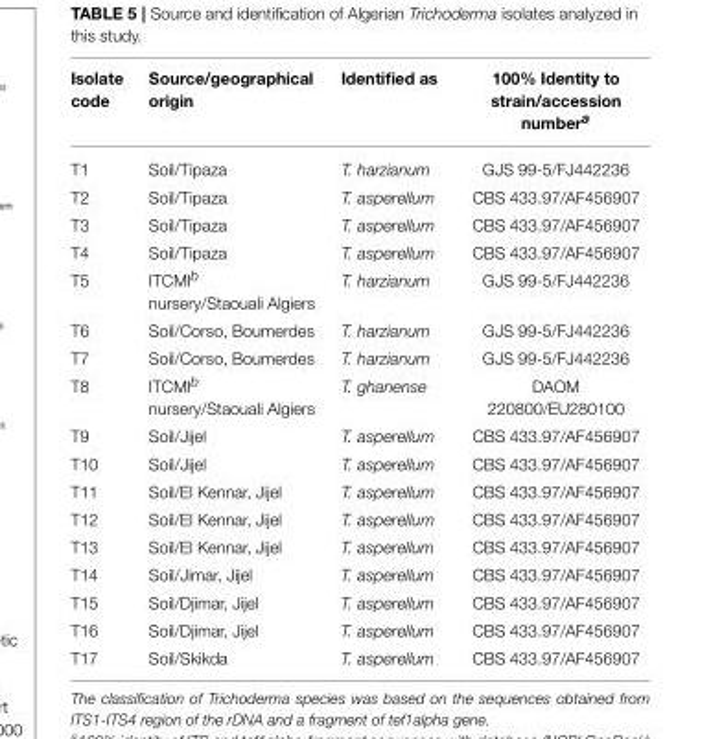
<table><thead><tr><td>Isolate code</td><td>Source/geographical origin</td><td>Identified as</td><td>100% Identity to strain/accession number<sup>a</sup></td></tr></thead><tbody><tr><td>T1</td><td>Soil/Tipaza</td><td>T. harzianum</td><td>GJS 99-5/FJ442236</td></tr><tr><td>T2</td><td>Soil/Tipaza</td><td>T. asperellum</td><td>CBS 433.97/AF456907</td></tr><tr><td>T3</td><td>Soil/Tipaza</td><td>T. asperellum</td><td>CBS 433.97/AF456907</td></tr><tr><td>T4</td><td>Soil/Tipaza</td><td>T. asperellum</td><td>CBS 433.97/AF456907</td></tr><tr><td>T5</td><td>ITCMI<sup>b</sup> nursery/Staouali Algiers</td><td>T. harzianum</td><td>GJS 99-5/FJ442236</td></tr><tr><td>T6</td><td>Soil/Corso, Boumerdes</td><td>T. harzianum</td><td>GJS 99-5/FJ442236</td></tr><tr><td>T7</td><td>Soil/Corso, Boumerdes</td><td>T. harzianum</td><td>GJS 99-5/FJ442236</td></tr><tr><td>T8</td><td>ITCMI<sup>b</sup> nursery/Staouali Algiers</td><td>T. ghanense</td><td>DAOM 220800/EU280100</td></tr><tr><td>T9</td><td>Soil/Jijel</td><td>T. asperellum</td><td>CBS 433.97/AF456907</td></tr><tr><td>T10</td><td>Soil/Jijel</td><td>T. asperellum</td><td>CBS 433.97/AF456907</td></tr><tr><td>T11</td><td>Soil/El Kennar, Jijel</td><td>T. asperellum</td><td>CBS 433.97/AF456907</td></tr><tr><td>T12</td><td>Soil/El Kennar, Jijel</td><td>T. asperellum</td><td>CBS 433.97/AF456907</td></tr><tr><td>T13</td><td>Soil/El Kennar, Jijel</td><td>T. asperellum</td><td>CBS 433.97/AF456907</td></tr><tr><td>T14</td><td>Soil/Jimar, Jijel</td><td>T. asperellum</td><td>CBS 433.97/AF456907</td></tr><tr><td>T15</td><td>Soil/Djimar, Jijel</td><td>T. asperellum</td><td>CBS 433.97/AF456907</td></tr><tr><td>T16</td><td>Soil/Djimar, Jijel</td><td>T. asperellum</td><td>CBS 433.97/AF456907</td></tr><tr><td>T17</td><td>Soil/Skikda</td><td>T. asperellum</td><td>CBS 433.97/AF456907</td></tr></tbody></table>